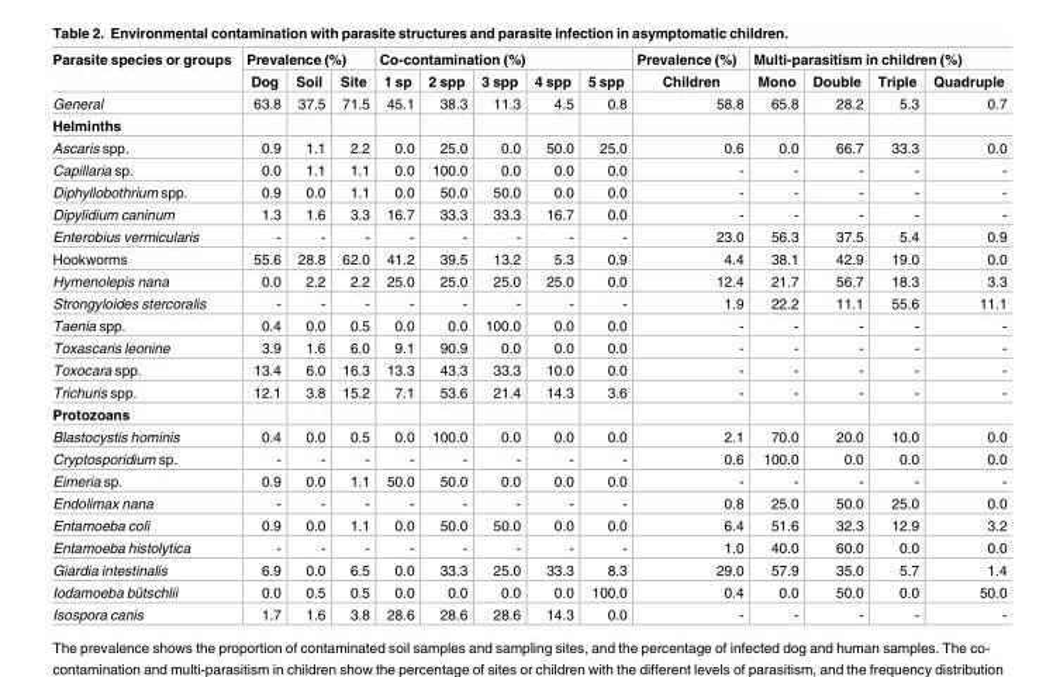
<table><thead><tr><td rowspan="2">Parasite species or groups</td><td colspan="3">Prevalence (%)</td><td colspan="5">Co-contamination (%)</td><td rowspan="2">Prevalence (%) Children</td><td colspan="4">Multi-parasitism in children (%)</td></tr><tr><td>Dog</td><td>Soil</td><td>Site</td><td>1 sp</td><td>2 spp</td><td>3 spp</td><td>4 spp</td><td>5 spp</td><td>Mono</td><td>Double</td><td>Triple</td><td>Quadruple</td></tr></thead><tbody><tr><td>General</td><td>63.8</td><td>37.5</td><td>71.5</td><td>45.1</td><td>38.3</td><td>11.3</td><td>4.5</td><td>0.8</td><td>58.8</td><td>65.8</td><td>28.2</td><td>5.3</td><td>0.7</td></tr><tr><td colspan="14">Helminths</td></tr><tr><td>Ascaris spp.</td><td>0.9</td><td>1.1</td><td>2.2</td><td>0.0</td><td>25.0</td><td>0.0</td><td>50.0</td><td>25.0</td><td>0.6</td><td>0.0</td><td>66.7</td><td>33.3</td><td>0.0</td></tr><tr><td>Capillaria sp.</td><td>0.0</td><td>1.1</td><td>1.1</td><td>0.0</td><td>100.0</td><td>0.0</td><td>0.0</td><td>0.0</td><td>-</td><td>-</td><td>-</td><td>-</td><td>-</td></tr><tr><td>Diphyllobothrium spp.</td><td>0.9</td><td>0.0</td><td>1.1</td><td>0.0</td><td>50.0</td><td>50.0</td><td>0.0</td><td>0.0</td><td>-</td><td>-</td><td>-</td><td>-</td><td>-</td></tr><tr><td>Dipylidium caninum</td><td>1.3</td><td>1.6</td><td>3.3</td><td>16.7</td><td>33.3</td><td>33.3</td><td>16.7</td><td>0.0</td><td>-</td><td>-</td><td>-</td><td>-</td><td>-</td></tr><tr><td>Enterobius vermicularis</td><td>-</td><td>-</td><td>-</td><td>-</td><td>-</td><td>-</td><td>-</td><td>-</td><td>23.0</td><td>56.3</td><td>37.5</td><td>5.4</td><td>0.9</td></tr><tr><td>Hookworms</td><td>55.6</td><td>28.8</td><td>62.0</td><td>41.2</td><td>39.5</td><td>13.2</td><td>5.3</td><td>0.9</td><td>4.4</td><td>38.1</td><td>42.9</td><td>19.0</td><td>0.0</td></tr><tr><td>Hymenolepis nana</td><td>0.0</td><td>2.2</td><td>2.2</td><td>25.0</td><td>25.0</td><td>25.0</td><td>25.0</td><td>0.0</td><td>12.4</td><td>21.7</td><td>56.7</td><td>18.3</td><td>3.3</td></tr><tr><td>Strongyloides stercoralis</td><td>-</td><td>-</td><td>-</td><td>-</td><td>-</td><td>-</td><td>-</td><td>-</td><td>1.9</td><td>22.2</td><td>11.1</td><td>55.6</td><td>11.1</td></tr><tr><td>Taenia spp.</td><td>0.4</td><td>0.0</td><td>0.5</td><td>0.0</td><td>0.0</td><td>100.0</td><td>0.0</td><td>0.0</td><td>-</td><td>-</td><td>-</td><td>-</td><td>-</td></tr><tr><td>Toxascaris leonine</td><td>3.9</td><td>1.6</td><td>6.0</td><td>9.1</td><td>90.9</td><td>0.0</td><td>0.0</td><td>0.0</td><td>-</td><td>-</td><td>-</td><td>-</td><td>-</td></tr><tr><td>Toxocara spp.</td><td>13.4</td><td>6.0</td><td>16.3</td><td>13.3</td><td>43.3</td><td>33.3</td><td>10.0</td><td>0.0</td><td>-</td><td>-</td><td>-</td><td>-</td><td>-</td></tr><tr><td>Trichuris spp.</td><td>12.1</td><td>3.8</td><td>15.2</td><td>7.1</td><td>53.6</td><td>21.4</td><td>14.3</td><td>3.6</td><td>-</td><td>-</td><td>-</td><td>-</td><td>-</td></tr><tr><td colspan="14">Protozoans</td></tr><tr><td>Blastocystis hominis</td><td>0.4</td><td>0.0</td><td>0.5</td><td>0.0</td><td>100.0</td><td>0.0</td><td>0.0</td><td>0.0</td><td>2.1</td><td>70.0</td><td>20.0</td><td>10.0</td><td>0.0</td></tr><tr><td>Cryptosporidium sp.</td><td>-</td><td>-</td><td>-</td><td>-</td><td>-</td><td>-</td><td>-</td><td>-</td><td>0.6</td><td>100.0</td><td>0.0</td><td>0.0</td><td>0.0</td></tr><tr><td>Eimeria sp.</td><td>0.9</td><td>0.0</td><td>1.1</td><td>50.0</td><td>50.0</td><td>0.0</td><td>0.0</td><td>0.0</td><td>-</td><td>-</td><td>-</td><td>-</td><td>-</td></tr><tr><td>Endolimax nana</td><td>-</td><td>-</td><td>-</td><td>-</td><td>-</td><td>-</td><td>-</td><td>-</td><td>0.8</td><td>25.0</td><td>50.0</td><td>25.0</td><td>0.0</td></tr><tr><td>Entamoeba coli</td><td>0.9</td><td>0.0</td><td>1.1</td><td>0.0</td><td>50.0</td><td>50.0</td><td>0.0</td><td>0.0</td><td>6.4</td><td>51.6</td><td>32.3</td><td>12.9</td><td>3.2</td></tr><tr><td>Entamoeba histolytica</td><td>-</td><td>-</td><td>-</td><td>-</td><td>-</td><td>-</td><td>-</td><td>-</td><td>1.0</td><td>40.0</td><td>60.0</td><td>0.0</td><td>0.0</td></tr><tr><td>Giardia intestinalis</td><td>6.9</td><td>0.0</td><td>6.5</td><td>0.0</td><td>33.3</td><td>25.0</td><td>33.3</td><td>8.3</td><td>29.0</td><td>57.9</td><td>35.0</td><td>5.7</td><td>1.4</td></tr><tr><td>Iodamoeba bu¨tschlii</td><td>0.0</td><td>0.5</td><td>0.5</td><td>0.0</td><td>0.0</td><td>0.0</td><td>0.0</td><td>100.0</td><td>0.4</td><td>0.0</td><td>50.0</td><td>0.0</td><td>50.0</td></tr><tr><td>Isospora canis</td><td>1.7</td><td>1.6</td><td>3.8</td><td>28.6</td><td>28.6</td><td>28.6</td><td>14.3</td><td>0.0</td><td>-</td><td>-</td><td>-</td><td>-</td><td>-</td></tr></tbody></table>